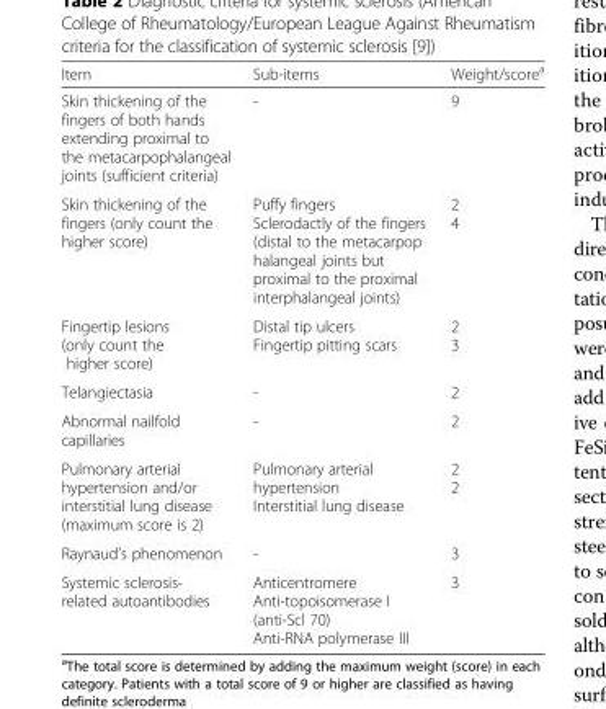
<table><thead><tr><td>Item</td><td>Sub-items</td><td>Weight/score<sup>a</sup></td></tr></thead><tbody><tr><td>Skin thickening of the fingers of both hands extending proximal to the metacarpophalangeal joints (sufficient criteria)</td><td>-</td><td>9</td></tr><tr><td>Skin thickening of the fingers (only count the higher score)</td><td>Puffy fingers Sclerodactly of the fingers (distal to the metacarpop halangeal joints but proximal to the proximal interphalangeal joints)</td><td>2 4</td></tr><tr><td>Fingertip lesions (only count the higher score)</td><td>Distal tip ulcers Fingertip pitting scars</td><td>2 3</td></tr><tr><td>Telangiectasia</td><td>-</td><td>2</td></tr><tr><td>Abnormal nailfold capillaries</td><td>-</td><td>2</td></tr><tr><td>Pulmonary arterial hypertension and/or interstitial lung disease (maximum score is 2)</td><td>Pulmonary arterial hypertension Interstitial lung disease</td><td>2 2</td></tr><tr><td>Raynaud’s phenomenon</td><td>-</td><td>3</td></tr><tr><td>Systemic sclerosis- related autoantibodies</td><td>Anticentromere Anti-topoisomerase I (anti-Scl 70) Anti-RNA polymerase III</td><td>3</td></tr></tbody></table>